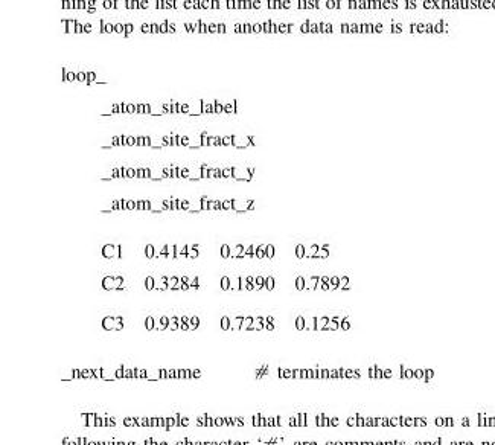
<table><tbody><tr><td colspan="4">loop_</td></tr><tr><td colspan="4">_atom_site_label</td></tr><tr><td colspan="4">_atom_site_fract_x</td></tr><tr><td colspan="4">_atom_site_fract_y</td></tr><tr><td colspan="4">_atom_site_fract_z</td></tr><tr><td>C1</td><td>0.4145</td><td>0.2460</td><td>0.25</td></tr><tr><td>C2</td><td>0.3284</td><td>0.1890</td><td>0.7892</td></tr><tr><td>C3</td><td>0.9389</td><td>0.7238</td><td>0.1256</td></tr><tr><td colspan="2">_next_data_name</td><td colspan="2"># terminates the loop</td></tr></tbody></table>